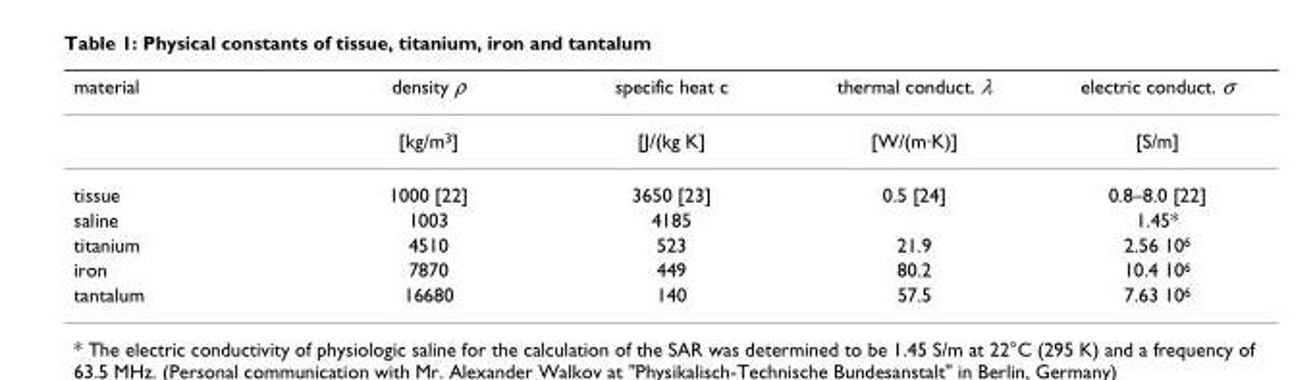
<table><thead><tr><td>material</td><td>density ρ</td><td>specific heat c</td><td>thermal conduct. λ</td><td>electric conduct. σ</td></tr></thead><tbody><tr><td></td><td>[kg/m<sup>3</sup>]</td><td>[J/(kg K]</td><td>[W/(m·K)]</td><td>[S/m]</td></tr><tr><td>tissue</td><td>1000 [22]</td><td>3650 [23]</td><td>0.5 [24]</td><td>0.8–8.0 [22]</td></tr><tr><td>saline</td><td>1003</td><td>4185</td><td></td><td>1.45*</td></tr><tr><td>titanium</td><td>4510</td><td>523</td><td>21.9</td><td>2.56 10<sup>6</sup></td></tr><tr><td>iron</td><td>7870</td><td>449</td><td>80.2</td><td>10.4 10<sup>6</sup></td></tr><tr><td>tantalum</td><td>16680</td><td>140</td><td>57.5</td><td>7.63 10<sup>6</sup></td></tr></tbody></table>